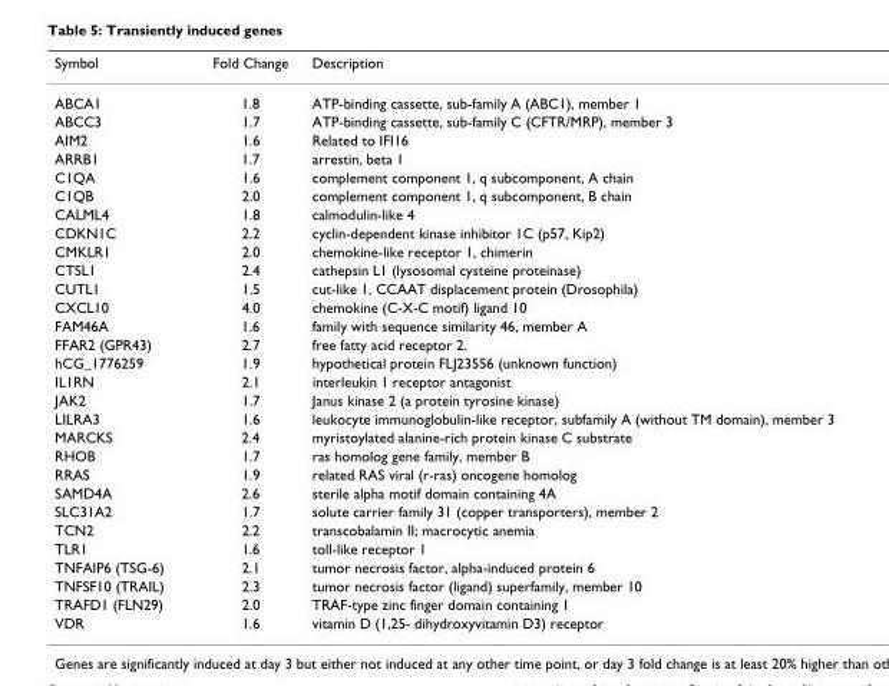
<table><thead><tr><td>Symbol</td><td>Fold Change</td><td>Description</td></tr></thead><tbody><tr><td>ABCA1</td><td>1.8</td><td>ATP-binding cassette, sub-family A (ABC1), member 1</td></tr><tr><td>ABCC3</td><td>1.7</td><td>ATP-binding cassette, sub-family C (CFTR/MRP), member 3</td></tr><tr><td>AIM2</td><td>1.6</td><td>Related to IFI16</td></tr><tr><td>ARRB1</td><td>1.7</td><td>arrestin, beta 1</td></tr><tr><td>C1QA</td><td>1.6</td><td>complement component 1, q subcomponent, A chain</td></tr><tr><td>C1QB</td><td>2.0</td><td>complement component 1, q subcomponent, B chain</td></tr><tr><td>CALML4</td><td>1.8</td><td>calmodulin-like 4</td></tr><tr><td>CDKN1C</td><td>2.2</td><td>cyclin-dependent kinase inhibitor 1C (p57, Kip2)</td></tr><tr><td>CMKLR1</td><td>2.0</td><td>chemokine-like receptor 1, chimerin</td></tr><tr><td>CTSL1</td><td>2.4</td><td>cathepsin L1 (lysosomal cysteine proteinase)</td></tr><tr><td>CUTL1</td><td>1.5</td><td>cut-like 1, CCAAT displacement protein (Drosophila)</td></tr><tr><td>CXCL10</td><td>4.0</td><td>chemokine (C-X-C motif) ligand 10</td></tr><tr><td>FAM46A</td><td>1.6</td><td>family with sequence similarity 46, member A</td></tr><tr><td>FFAR2 (GPR43)</td><td>2.7</td><td>free fatty acid receptor 2.</td></tr><tr><td>hCG_1776259</td><td>1.9</td><td>hypothetical protein FLJ23556 (unknown function)</td></tr><tr><td>IL1RN</td><td>2.1</td><td>interleukin 1 receptor antagonist</td></tr><tr><td>JAK2</td><td>1.7</td><td>Janus kinase 2 (a protein tyrosine kinase)</td></tr><tr><td>LILRA3</td><td>1.6</td><td>leukocyte immunoglobulin-like receptor, subfamily A (without TM domain), member 3</td></tr><tr><td>MARCKS</td><td>2.4</td><td>myristoylated alanine-rich protein kinase C substrate</td></tr><tr><td>RHOB</td><td>1.7</td><td>ras homolog gene family, member B</td></tr><tr><td>RRAS</td><td>1.9</td><td>related RAS viral (r-ras) oncogene homolog</td></tr><tr><td>SAMD4A</td><td>2.6</td><td>sterile alpha motif domain containing 4A</td></tr><tr><td>SLC31A2</td><td>1.7</td><td>solute carrier family 31 (copper transporters), member 2</td></tr><tr><td>TCN2</td><td>2.2</td><td>transcobalamin II; macrocytic anemia</td></tr><tr><td>TLR1</td><td>1.6</td><td>toll-like receptor 1</td></tr><tr><td>TNFAIP6 (TSG-6)</td><td>2.1</td><td>tumor necrosis factor, alpha-induced protein 6</td></tr><tr><td>TNFSF10 (TRAIL)</td><td>2.3</td><td>tumor necrosis factor (ligand) superfamily, member 10</td></tr><tr><td>TRAFD1 (FLN29)</td><td>2.0</td><td>TRAF-type zinc finger domain containing 1</td></tr><tr><td>VDR</td><td>1.6</td><td>vitamin D (1,25- dihydroxyvitamin D3) receptor</td></tr></tbody></table>